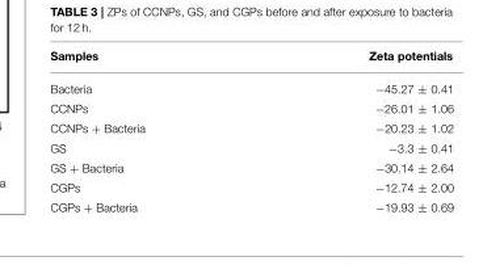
<table><thead><tr><td>Samples</td><td>Zeta potentials</td></tr></thead><tbody><tr><td>Bacteria</td><td>−45.27 ± 0.41</td></tr><tr><td>CCNPs</td><td>−26.01 ± 1.06</td></tr><tr><td>CCNPs + Bacteria</td><td>−20.23 ± 1.02</td></tr><tr><td>GS</td><td>−3.3 ± 0.41</td></tr><tr><td>GS + Bacteria</td><td>−30.14 ± 2.64</td></tr><tr><td>CGPs</td><td>−12.74 ± 2.00</td></tr><tr><td>CGPs + Bacteria</td><td>−19.93 ± 0.69</td></tr></tbody></table>